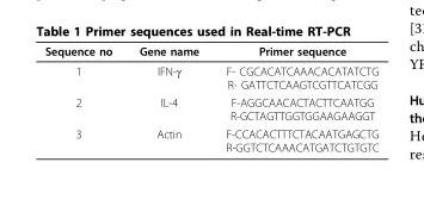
<table><thead><tr><td>Sequence no</td><td>Gene name</td><td>Primer sequence</td></tr></thead><tbody><tr><td>1</td><td>IFN-γ</td><td>F- CGCACATCAAACACATATCTG R- GATTCTCAAGTCGTTCATCGG</td></tr><tr><td>2</td><td>IL-4</td><td>F-AGGCAACACTACTTCAATGG R-GCTAGTTGGTGGAAGAAGGT</td></tr><tr><td>3</td><td>Actin</td><td>F-CCACACTTTCTACAATGAGCTG R-GGTCTCAAACATGATCTGTGTC</td></tr></tbody></table>